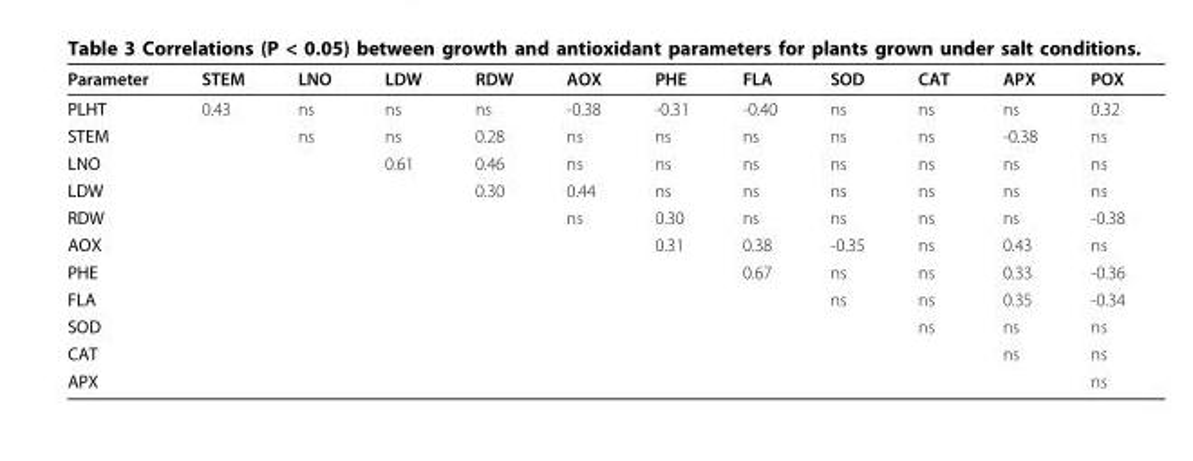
<table><thead><tr><td>Parameter</td><td>STEM</td><td>LNO</td><td>LDW</td><td>RDW</td><td>AOX</td><td>PHE</td><td>FLA</td><td>SOD</td><td>CAT</td><td>APX</td><td>POX</td></tr></thead><tbody><tr><td>PLHT</td><td>0.43</td><td>ns</td><td>ns</td><td>ns</td><td>-0.38</td><td>-0.31</td><td>-0.40</td><td>ns</td><td>ns</td><td>ns</td><td>0.32</td></tr><tr><td>STEM</td><td></td><td>ns</td><td>ns</td><td>0.28</td><td>ns</td><td>ns</td><td>ns</td><td>ns</td><td>ns</td><td>-0.38</td><td>ns</td></tr><tr><td>LNO</td><td></td><td></td><td>0.61</td><td>0.46</td><td>ns</td><td>ns</td><td>ns</td><td>ns</td><td>ns</td><td>ns</td><td>ns</td></tr><tr><td>LDW</td><td></td><td></td><td></td><td>0.30</td><td>0.44</td><td>ns</td><td>ns</td><td>ns</td><td>ns</td><td>ns</td><td>ns</td></tr><tr><td>RDW</td><td></td><td></td><td></td><td></td><td>ns</td><td>0.30</td><td>ns</td><td>ns</td><td>ns</td><td>ns</td><td>-0.38</td></tr><tr><td>AOX</td><td></td><td></td><td></td><td></td><td></td><td>0.31</td><td>0.38</td><td>-0.35</td><td>ns</td><td>0.43</td><td>ns</td></tr><tr><td>PHE</td><td></td><td></td><td></td><td></td><td></td><td></td><td>0.67</td><td>ns</td><td>ns</td><td>0.33</td><td>-0.36</td></tr><tr><td>FLA</td><td></td><td></td><td></td><td></td><td></td><td></td><td></td><td>ns</td><td>ns</td><td>0.35</td><td>-0.34</td></tr><tr><td>SOD</td><td></td><td></td><td></td><td></td><td></td><td></td><td></td><td></td><td>ns</td><td>ns</td><td>ns</td></tr><tr><td>CAT</td><td></td><td></td><td></td><td></td><td></td><td></td><td></td><td></td><td></td><td>ns</td><td>ns</td></tr><tr><td>APX</td><td></td><td></td><td></td><td></td><td></td><td></td><td></td><td></td><td></td><td></td><td>ns</td></tr></tbody></table>